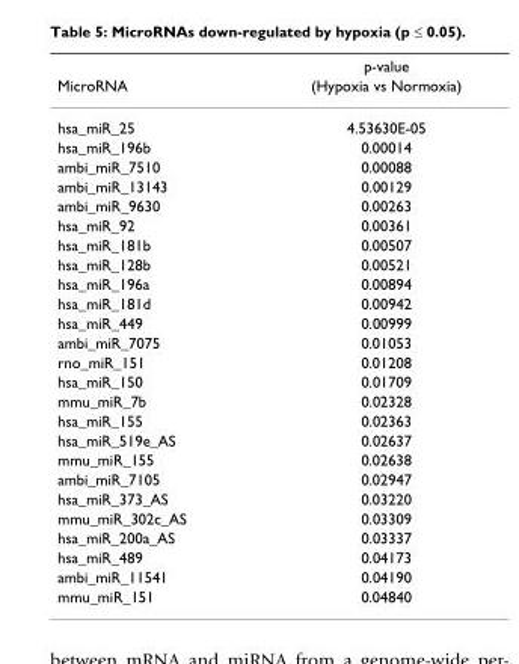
<table><thead><tr><td rowspan="2">MicroRNA</td><td rowspan="2">p-value (Hypoxia vs Normoxia)</td></tr><tr></tr></thead><tbody><tr><td>hsa_miR_25</td><td>4.53630E-05</td></tr><tr><td>hsa_miR_196b</td><td>0.00014</td></tr><tr><td>ambi_miR_7510</td><td>0.00088</td></tr><tr><td>ambi_miR_13143</td><td>0.00129</td></tr><tr><td>ambi_miR_9630</td><td>0.00263</td></tr><tr><td>hsa_miR_92</td><td>0.00361</td></tr><tr><td>hsa_miR_181b</td><td>0.00507</td></tr><tr><td>hsa_miR_128b</td><td>0.00521</td></tr><tr><td>hsa_miR_196a</td><td>0.00894</td></tr><tr><td>hsa_miR_181d</td><td>0.00942</td></tr><tr><td>hsa_miR_449</td><td>0.00999</td></tr><tr><td>ambi_miR_7075</td><td>0.01053</td></tr><tr><td>rno_miR_151</td><td>0.01208</td></tr><tr><td>hsa_miR_150</td><td>0.01709</td></tr><tr><td>mmu_miR_7b</td><td>0.02328</td></tr><tr><td>hsa_miR_155</td><td>0.02363</td></tr><tr><td>hsa_miR_519e_AS</td><td>0.02637</td></tr><tr><td>mmu_miR_155</td><td>0.02638</td></tr><tr><td>ambi_miR_7105</td><td>0.02947</td></tr><tr><td>hsa_miR_373_AS</td><td>0.03220</td></tr><tr><td>mmu_miR_302c_AS</td><td>0.03309</td></tr><tr><td>hsa_miR_200a_AS</td><td>0.03337</td></tr><tr><td>hsa_miR_489</td><td>0.04173</td></tr><tr><td>ambi_miR_11541</td><td>0.04190</td></tr><tr><td>mmu_miR_151</td><td>0.04840</td></tr></tbody></table>